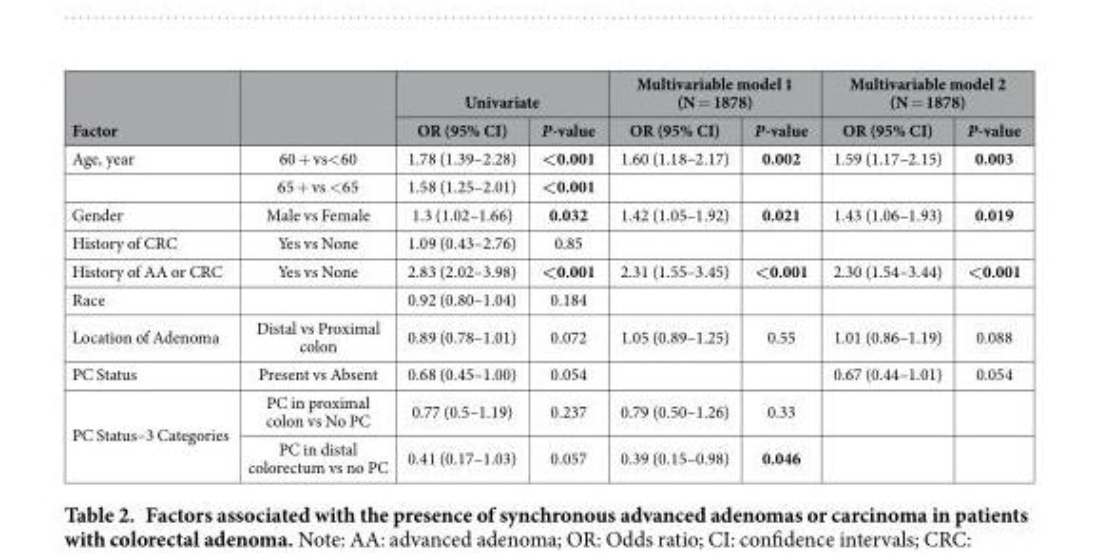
<table><thead><tr><td rowspan="2">Factor</td><td rowspan="2"></td><td colspan="2">Univariate</td><td colspan="2">Multivariable model 1 (N = 1878)</td><td colspan="2">Multivariable model 2 (N = 1878)</td></tr><tr><td>OR (95% CI)</td><td>P-value</td><td>OR (95% CI)</td><td>P-value</td><td>OR (95% CI)</td><td>P-value</td></tr></thead><tbody><tr><td rowspan="2">Age, year</td><td>60 + vs&lt; 60</td><td>1.78 (1.39–2.28)</td><td>&lt;0.001</td><td>1.60 (1.18–2.17)</td><td>0.002</td><td>1.59 (1.17–2.15)</td><td>0.003</td></tr><tr><td>65 + vs &lt; 65</td><td>1.58 (1.25–2.01)</td><td>&lt;0.001</td><td></td><td></td><td></td><td></td></tr><tr><td>Gender</td><td>Male vs Female</td><td>1.3 (1.02–1.66)</td><td>0.032</td><td>1.42 (1.05–1.92)</td><td>0.021</td><td>1.43 (1.06–1.93)</td><td>0.019</td></tr><tr><td>History of CRC</td><td>Yes vs None</td><td>1.09 (0.43–2.76)</td><td>0.85</td><td></td><td></td><td></td><td></td></tr><tr><td>History of AA or CRC</td><td>Yes vs None</td><td>2.83 (2.02–3.98)</td><td>&lt;0.001</td><td>2.31 (1.55–3.45)</td><td>&lt;0.001</td><td>2.30 (1.54–3.44)</td><td>&lt;0.001</td></tr><tr><td>Race</td><td></td><td>0.92 (0.80–1.04)</td><td>0.184</td><td></td><td></td><td></td><td></td></tr><tr><td>Location of Adenoma</td><td>Distal vs Proximal colon</td><td>0.89 (0.78–1.01)</td><td>0.072</td><td>1.05 (0.89–1.25)</td><td>0.55</td><td>1.01 (0.86–1.19)</td><td>0.088</td></tr><tr><td>PC Status</td><td>Present vs Absent</td><td>0.68 (0.45–1.00)</td><td>0.054</td><td></td><td></td><td>0.67 (0.44–1.01)</td><td>0.054</td></tr><tr><td rowspan="2">PC Status–3 Categories</td><td>PC in proximal colon vs No PC</td><td>0.77 (0.5–1.19)</td><td>0.237</td><td>0.79 (0.50–1.26)</td><td>0.33</td><td></td><td></td></tr><tr><td>PC in distal colorectum vs no PC</td><td>0.41 (0.17–1.03)</td><td>0.057</td><td>0.39 (0.15–0.98)</td><td>0.046</td><td></td><td></td></tr></tbody></table>